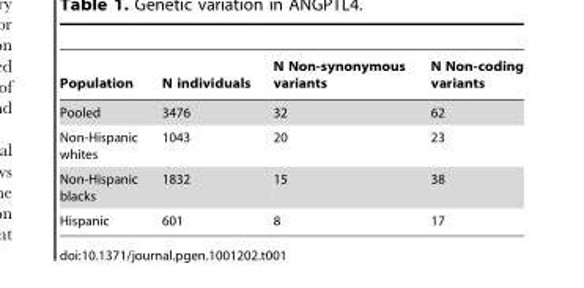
<table><thead><tr><td>Population</td><td>N individuals</td><td>N Non-synonymous variants</td><td>N Non-coding variants</td></tr></thead><tbody><tr><td>Pooled</td><td>3476</td><td>32</td><td>62</td></tr><tr><td>Non-Hispanic whites</td><td>1043</td><td>20</td><td>23</td></tr><tr><td>Non-Hispanic blacks</td><td>1832</td><td>15</td><td>38</td></tr><tr><td>Hispanic</td><td>601</td><td>8</td><td>17</td></tr></tbody></table>